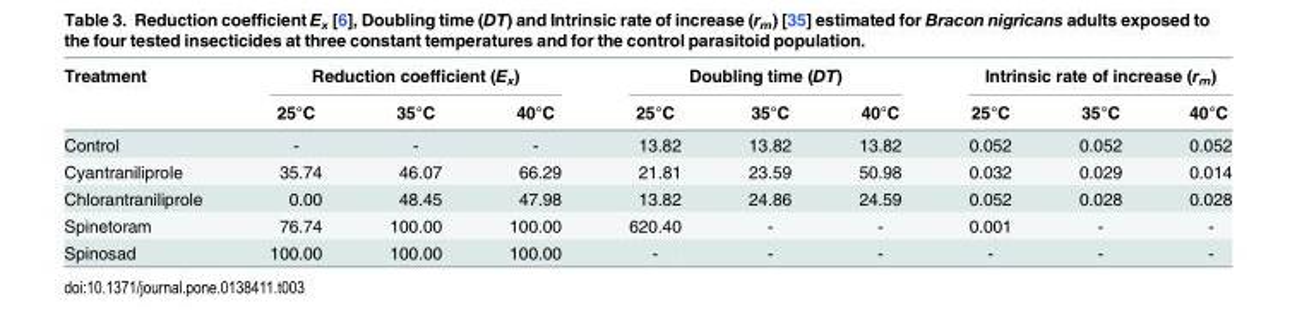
<table><thead><tr><td rowspan="2">Treatment</td><td colspan="3">Reduction coefficient (E<sub>x</sub>)</td><td colspan="3">Doubling time (DT)</td><td colspan="3">Intrinsic rate of increase (r<sub>m</sub>)</td></tr><tr><td>25°C</td><td>35°C</td><td>40°C</td><td>25°C</td><td>35°C</td><td>40°C</td><td>25°C</td><td>35°C</td><td>40°C</td></tr></thead><tbody><tr><td>Control</td><td>-</td><td>-</td><td>-</td><td>13.82</td><td>13.82</td><td>13.82</td><td>0.052</td><td>0.052</td><td>0.052</td></tr><tr><td>Cyantraniliprole</td><td>35.74</td><td>46.07</td><td>66.29</td><td>21.81</td><td>23.59</td><td>50.98</td><td>0.032</td><td>0.029</td><td>0.014</td></tr><tr><td>Chlorantraniliprole</td><td>0.00</td><td>48.45</td><td>47.98</td><td>13.82</td><td>24.86</td><td>24.59</td><td>0.052</td><td>0.028</td><td>0.028</td></tr><tr><td>Spinetoram</td><td>76.74</td><td>100.00</td><td>100.00</td><td>620.40</td><td>-</td><td>-</td><td>0.001</td><td>-</td><td>-</td></tr><tr><td>Spinosad</td><td>100.00</td><td>100.00</td><td>100.00</td><td>-</td><td>-</td><td>-</td><td>-</td><td>-</td><td>-</td></tr></tbody></table>